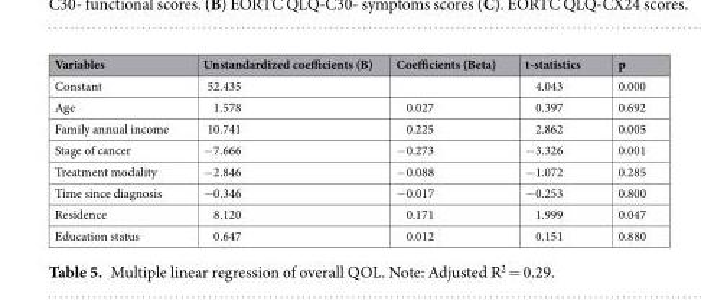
<table><thead><tr><td>Variables</td><td>Unstandardized coefficients (B)</td><td>Coefficients (Beta)</td><td>t-statistics</td><td>p</td></tr></thead><tbody><tr><td>Constant</td><td>52.435</td><td></td><td>4.043</td><td>0.000</td></tr><tr><td>Age</td><td>1.578</td><td>0.027</td><td>0.397</td><td>0.692</td></tr><tr><td>Family annual income</td><td>10.741</td><td>0.225</td><td>2.862</td><td>0.005</td></tr><tr><td>Stage of cancer</td><td>−7.666</td><td>−0.273</td><td>−3.326</td><td>0.001</td></tr><tr><td>Treatment modality</td><td>−2.846</td><td>−0.088</td><td>−1.072</td><td>0.285</td></tr><tr><td>Time since diagnosis</td><td>−0.346</td><td>−0.017</td><td>−0.253</td><td>0.800</td></tr><tr><td>Residence</td><td>8.120</td><td>0.171</td><td>1.999</td><td>0.047</td></tr><tr><td>Education status</td><td>0.647</td><td>0.012</td><td>0.151</td><td>0.880</td></tr></tbody></table>